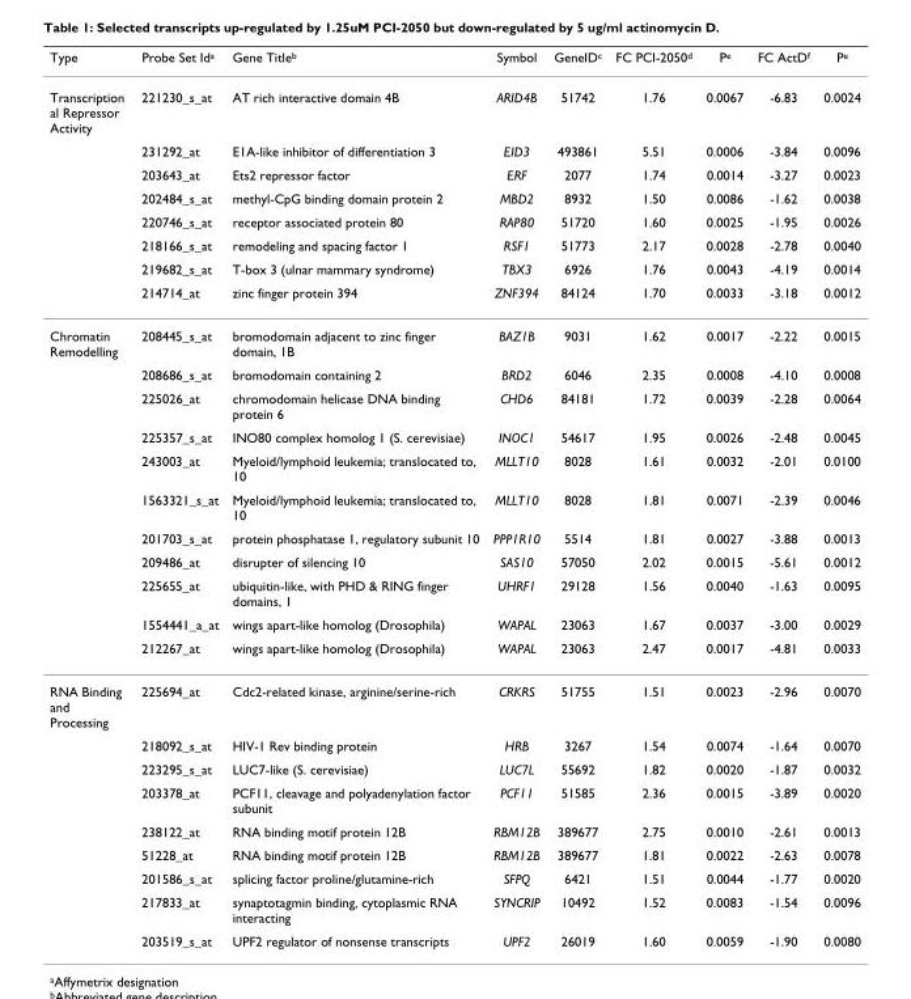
<table><thead><tr><td>Type</td><td>Probe Set Id<sup>a</sup></td><td>Gene Title<sup>b</sup></td><td>Symbol</td><td>GeneID<sup>c</sup></td><td>FC PCI-2050<sup>d</sup></td><td>P<sup>e</sup></td><td>FC ActD<sup>f</sup></td><td>P<sup>e</sup></td></tr></thead><tbody><tr><td rowspan="8">Transcription al Repressor Activity</td><td>221230_s_at</td><td>AT rich interactive domain 4B</td><td>ARID4B</td><td>51742</td><td>1.76</td><td>0.0067</td><td>-6.83</td><td>0.0024</td></tr><tr><td>231292_at</td><td>E1A-like inhibitor of differentiation 3</td><td>EID3</td><td>493861</td><td>5.51</td><td>0.0006</td><td>-3.84</td><td>0.0096</td></tr><tr><td>203643_at</td><td>Ets2 repressor factor</td><td>ERF</td><td>2077</td><td>1.74</td><td>0.0014</td><td>-3.27</td><td>0.0023</td></tr><tr><td>202484_s_at</td><td>methyl-CpG binding domain protein 2</td><td>MBD2</td><td>8932</td><td>1.50</td><td>0.0086</td><td>-1.62</td><td>0.0038</td></tr><tr><td>220746_s_at</td><td>receptor associated protein 80</td><td>RAP80</td><td>51720</td><td>1.60</td><td>0.0025</td><td>-1.95</td><td>0.0026</td></tr><tr><td>218166_s_at</td><td>remodeling and spacing factor 1</td><td>RSF1</td><td>51773</td><td>2.17</td><td>0.0028</td><td>-2.78</td><td>0.0040</td></tr><tr><td>219682_s_at</td><td>T-box 3 (ulnar mammary syndrome)</td><td>TBX3</td><td>6926</td><td>1.76</td><td>0.0043</td><td>-4.19</td><td>0.0014</td></tr><tr><td>214714_at</td><td>zinc finger protein 394</td><td>ZNF394</td><td>84124</td><td>1.70</td><td>0.0033</td><td>-3.18</td><td>0.0012</td></tr><tr><td rowspan="11">Chromatin Remodelling</td><td>208445_s_at</td><td>bromodomain adjacent to zinc finger domain, 1B</td><td>BAZ1B</td><td>9031</td><td>1.62</td><td>0.0017</td><td>-2.22</td><td>0.0015</td></tr><tr><td>208686_s_at</td><td>bromodomain containing 2</td><td>BRD2</td><td>6046</td><td>2.35</td><td>0.0008</td><td>-4.10</td><td>0.0008</td></tr><tr><td>225026_at</td><td>chromodomain helicase DNA binding protein 6</td><td>CHD6</td><td>84181</td><td>1.72</td><td>0.0039</td><td>-2.28</td><td>0.0064</td></tr><tr><td>225357_s_at</td><td>INO80 complex homolog 1 (S. cerevisiae)</td><td>INOC1</td><td>54617</td><td>1.95</td><td>0.0026</td><td>-2.48</td><td>0.0045</td></tr><tr><td>243003_at</td><td>Myeloid/lymphoid leukemia; translocated to, 10</td><td>MLLT10</td><td>8028</td><td>1.61</td><td>0.0032</td><td>-2.01</td><td>0.0100</td></tr><tr><td>1563321_s_at</td><td>Myeloid/lymphoid leukemia; translocated to, 10</td><td>MLLT10</td><td>8028</td><td>1.81</td><td>0.0071</td><td>-2.39</td><td>0.0046</td></tr><tr><td>201703_s_at</td><td>protein phosphatase 1, regulatory subunit 10</td><td>PPP1R10</td><td>5514</td><td>1.81</td><td>0.0027</td><td>-3.88</td><td>0.0013</td></tr><tr><td>209486_at</td><td>disrupter of silencing 10</td><td>SAS10</td><td>57050</td><td>2.02</td><td>0.0015</td><td>-5.61</td><td>0.0012</td></tr><tr><td>225655_at</td><td>ubiquitin-like, with PHD &amp; RING finger domains, 1</td><td>UHRF1</td><td>29128</td><td>1.56</td><td>0.0040</td><td>-1.63</td><td>0.0095</td></tr><tr><td>1554441_a_at</td><td>wings apart-like homolog (Drosophila)</td><td>WAPAL</td><td>23063</td><td>1.67</td><td>0.0037</td><td>-3.00</td><td>0.0029</td></tr><tr><td>212267_at</td><td>wings apart-like homolog (Drosophila)</td><td>WAPAL</td><td>23063</td><td>2.47</td><td>0.0017</td><td>-4.81</td><td>0.0033</td></tr><tr><td rowspan="9">RNA Binding and Processing</td><td>225694_at</td><td>Cdc2-related kinase, arginine/serine-rich</td><td>CRKRS</td><td>51755</td><td>1.51</td><td>0.0023</td><td>-2.96</td><td>0.0070</td></tr><tr><td>218092_s_at</td><td>HIV-1 Rev binding protein</td><td>HRB</td><td>3267</td><td>1.54</td><td>0.0074</td><td>-1.64</td><td>0.0070</td></tr><tr><td>223295_s_at</td><td>LUC7-like (S. cerevisiae)</td><td>LUC7L</td><td>55692</td><td>1.82</td><td>0.0020</td><td>-1.87</td><td>0.0032</td></tr><tr><td>203378_at</td><td>PCF11, cleavage and polyadenylation factor subunit</td><td>PCF11</td><td>51585</td><td>2.36</td><td>0.0015</td><td>-3.89</td><td>0.0020</td></tr><tr><td>238122_at</td><td>RNA binding motif protein 12B</td><td>RBM12B</td><td>389677</td><td>2.75</td><td>0.0010</td><td>-2.61</td><td>0.0013</td></tr><tr><td>51228_at</td><td>RNA binding motif protein 12B</td><td>RBM12B</td><td>389677</td><td>1.81</td><td>0.0022</td><td>-2.63</td><td>0.0078</td></tr><tr><td>201586_s_at</td><td>splicing factor proline/glutamine-rich</td><td>SFPQ</td><td>6421</td><td>1.51</td><td>0.0044</td><td>-1.77</td><td>0.0020</td></tr><tr><td>217833_at</td><td>synaptotagmin binding, cytoplasmic RNA interacting</td><td>SYNCRIP</td><td>10492</td><td>1.52</td><td>0.0083</td><td>-1.54</td><td>0.0096</td></tr><tr><td>203519_s_at</td><td>UPF2 regulator of nonsense transcripts</td><td>UPF2</td><td>26019</td><td>1.60</td><td>0.0059</td><td>-1.90</td><td>0.0080</td></tr></tbody></table>